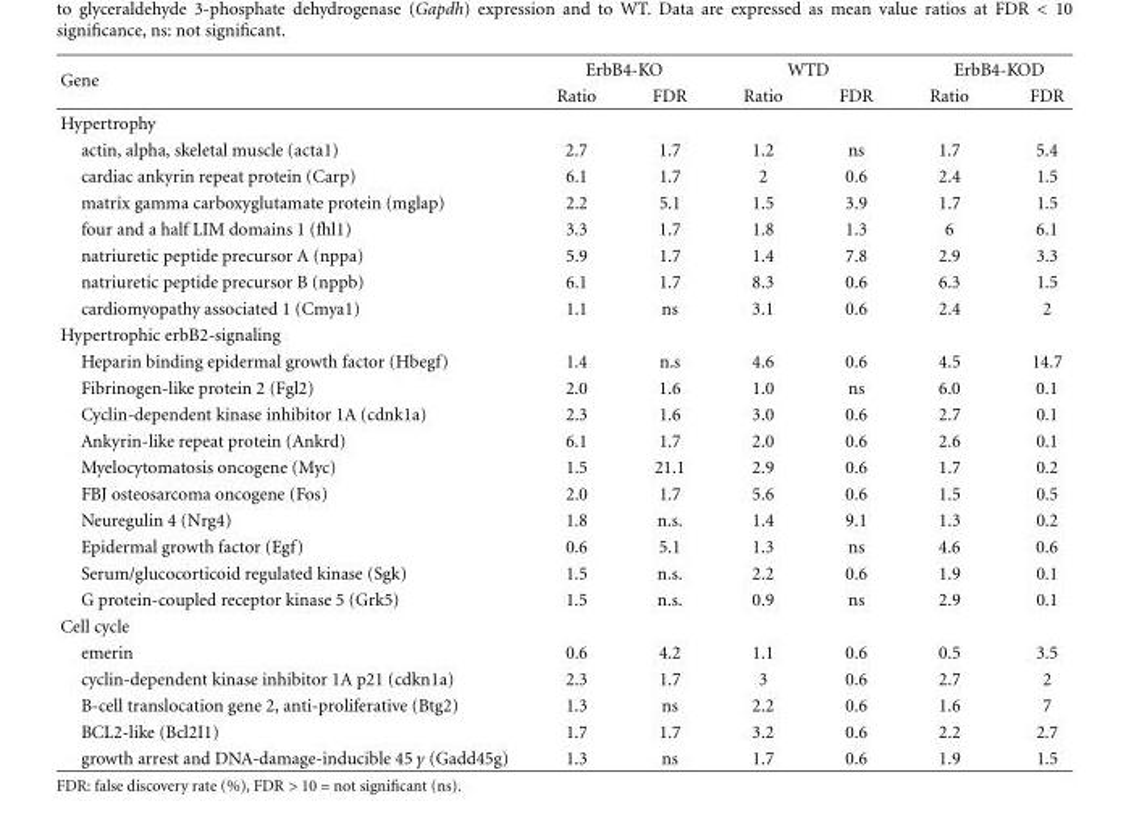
<table><thead><tr><td rowspan="2">Gene</td><td colspan="2">ErbB4-KO</td><td colspan="2">WTD</td><td colspan="2">ErbB4-KOD</td></tr><tr><td>Ratio</td><td>FDR</td><td>Ratio</td><td>FDR</td><td>Ratio</td><td>FDR</td></tr></thead><tbody><tr><td colspan="7">Hypertrophy</td></tr><tr><td>actin, alpha, skeletal muscle (acta1)</td><td>2.7</td><td>1.7</td><td>1.2</td><td>ns</td><td>1.7</td><td>5.4</td></tr><tr><td>cardiac ankyrin repeat protein (Carp)</td><td>6.1</td><td>1.7</td><td>2</td><td>0.6</td><td>2.4</td><td>1.5</td></tr><tr><td>matrix gamma carboxyglutamate protein (mglap)</td><td>2.2</td><td>5.1</td><td>1.5</td><td>3.9</td><td>1.7</td><td>1.5</td></tr><tr><td>four and a half LIM domains 1 (fhl1)</td><td>3.3</td><td>1.7</td><td>1.8</td><td>1.3</td><td>6</td><td>6.1</td></tr><tr><td>natriuretic peptide precursor A (nppa)</td><td>5.9</td><td>1.7</td><td>1.4</td><td>7.8</td><td>2.9</td><td>3.3</td></tr><tr><td>natriuretic peptide precursor B (nppb)</td><td>6.1</td><td>1.7</td><td>8.3</td><td>0.6</td><td>6.3</td><td>1.5</td></tr><tr><td>cardiomyopathy associated 1 (Cmya1)</td><td>1.1</td><td>ns</td><td>3.1</td><td>0.6</td><td>2.4</td><td>2</td></tr><tr><td colspan="7">Hypertrophic erbB2-signaling</td></tr><tr><td>Heparin binding epidermal growth factor (Hbegf)</td><td>1.4</td><td>n.s</td><td>4.6</td><td>0.6</td><td>4.5</td><td>14.7</td></tr><tr><td>Fibrinogen-like protein 2 (Fgl2)</td><td>2.0</td><td>1.6</td><td>1.0</td><td>ns</td><td>6.0</td><td>0.1</td></tr><tr><td>Cyclin-dependent kinase inhibitor 1A (cdnk1a)</td><td>2.3</td><td>1.6</td><td>3.0</td><td>0.6</td><td>2.7</td><td>0.1</td></tr><tr><td>Ankyrin-like repeat protein (Ankrd)</td><td>6.1</td><td>1.7</td><td>2.0</td><td>0.6</td><td>2.6</td><td>0.1</td></tr><tr><td>Myelocytomatosis oncogene (Myc)</td><td>1.5</td><td>21.1</td><td>2.9</td><td>0.6</td><td>1.7</td><td>0.2</td></tr><tr><td>FBJ osteosarcoma oncogene (Fos)</td><td>2.0</td><td>1.7</td><td>5.6</td><td>0.6</td><td>1.5</td><td>0.5</td></tr><tr><td>Neuregulin 4 (Nrg4)</td><td>1.8</td><td>n.s.</td><td>1.4</td><td>9.1</td><td>1.3</td><td>0.2</td></tr><tr><td>Epidermal growth factor (Egf)</td><td>0.6</td><td>5.1</td><td>1.3</td><td>ns</td><td>4.6</td><td>0.6</td></tr><tr><td>Serum/glucocorticoid regulated kinase (Sgk)</td><td>1.5</td><td>n.s.</td><td>2.2</td><td>0.6</td><td>1.9</td><td>0.1</td></tr><tr><td>G protein-coupled receptor kinase 5 (Grk5)</td><td>1.5</td><td>n.s.</td><td>0.9</td><td>ns</td><td>2.9</td><td>0.1</td></tr><tr><td colspan="7">Cell cycle</td></tr><tr><td>emerin</td><td>0.6</td><td>4.2</td><td>1.1</td><td>0.6</td><td>0.5</td><td>3.5</td></tr><tr><td>cyclin-dependent kinase inhibitor 1A p21 (cdkn1a)</td><td>2.3</td><td>1.7</td><td>3</td><td>0.6</td><td>2.7</td><td>2</td></tr><tr><td>B-cell translocation gene 2, anti-proliferative (Btg2)</td><td>1.3</td><td>ns</td><td>2.2</td><td>0.6</td><td>1.6</td><td>7</td></tr><tr><td>BCL2-like (Bcl2I1)</td><td>1.7</td><td>1.7</td><td>3.2</td><td>0.6</td><td>2.2</td><td>2.7</td></tr><tr><td>growth arrest and DNA-damage-inducible 45 γ (Gadd45g)</td><td>1.3</td><td>ns</td><td>1.7</td><td>0.6</td><td>1.9</td><td>1.5</td></tr></tbody></table>